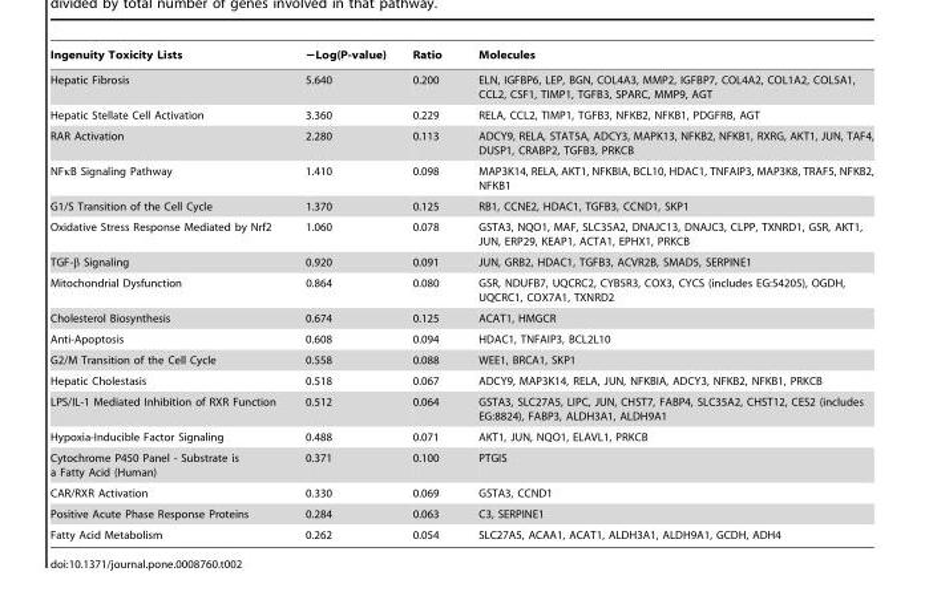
<table><thead><tr><td>Ingenuity Toxicity Lists</td><td>−Log(P-value)</td><td>Ratio</td><td>Molecules</td></tr></thead><tbody><tr><td>Hepatic Fibrosis</td><td>5.640</td><td>0.200</td><td>ELN, IGFBP6, LEP, BGN, COL4A3, MMP2, IGFBP7, COL4A2, COL1A2, COL5A1, CCL2, CSF1, TIMP1, TGFB3, SPARC, MMP9, AGT</td></tr><tr><td>Hepatic Stellate Cell Activation</td><td>3.360</td><td>0.229</td><td>RELA, CCL2, TIMP1, TGFB3, NFKB2, NFKB1, PDGFRB, AGT</td></tr><tr><td>RAR Activation</td><td>2.280</td><td>0.113</td><td>ADCY9, RELA, STAT5A, ADCY3, MAPK13, NFKB2, NFKB1, RXRG, AKT1, JUN, TAF4, DUSP1, CRABP2, TGFB3, PRKCB</td></tr><tr><td>NFκB Signaling Pathway</td><td>1.410</td><td>0.098</td><td>MAP3K14, RELA, AKT1, NFKBIA, BCL10, HDAC1, TNFAIP3, MAP3K8, TRAF5, NFKB2, NFKB1</td></tr><tr><td>G1/S Transition of the Cell Cycle</td><td>1.370</td><td>0.125</td><td>RB1, CCNE2, HDAC1, TGFB3, CCND1, SKP1</td></tr><tr><td>Oxidative Stress Response Mediated by Nrf2</td><td>1.060</td><td>0.078</td><td>GSTA3, NQO1, MAF, SLC35A2, DNAJC13, DNAJC3, CLPP, TXNRD1, GSR, AKT1, JUN, ERP29, KEAP1, ACTA1, EPHX1, PRKCB</td></tr><tr><td>TGF-β Signaling</td><td>0.920</td><td>0.091</td><td>JUN, GRB2, HDAC1, TGFB3, ACVR2B, SMAD5, SERPINE1</td></tr><tr><td>Mitochondrial Dysfunction</td><td>0.864</td><td>0.080</td><td>GSR, NDUFB7, UQCRC2, CYB5R3, COX3, CYCS (includes EG:54205), OGDH, UQCRC1, COX7A1, TXNRD2</td></tr><tr><td>Cholesterol Biosynthesis</td><td>0.674</td><td>0.125</td><td>ACAT1, HMGCR</td></tr><tr><td>Anti-Apoptosis</td><td>0.608</td><td>0.094</td><td>HDAC1, TNFAIP3, BCL2L10</td></tr><tr><td>G2/M Transition of the Cell Cycle</td><td>0.558</td><td>0.088</td><td>WEE1, BRCA1, SKP1</td></tr><tr><td>Hepatic Cholestasis</td><td>0.518</td><td>0.067</td><td>ADCY9, MAP3K14, RELA, JUN, NFKBIA, ADCY3, NFKB2, NFKB1, PRKCB</td></tr><tr><td>LPS/IL-1 Mediated Inhibition of RXR Function</td><td>0.512</td><td>0.064</td><td>GSTA3, SLC27A5, LIPC, JUN, CHST7, FABP4, SLC35A2, CHST12, CES2 (includes EG:8824), FABP3, ALDH3A1, ALDH9A1</td></tr><tr><td>Hypoxia-Inducible Factor Signaling</td><td>0.488</td><td>0.071</td><td>AKT1, JUN, NQO1, ELAVL1, PRKCB</td></tr><tr><td>Cytochrome P450 Panel - Substrate is a Fatty Acid (Human)</td><td>0.371</td><td>0.100</td><td>PTGIS</td></tr><tr><td>CAR/RXR Activation</td><td>0.330</td><td>0.069</td><td>GSTA3, CCND1</td></tr><tr><td>Positive Acute Phase Response Proteins</td><td>0.284</td><td>0.063</td><td>C3, SERPINE1</td></tr><tr><td>Fatty Acid Metabolism</td><td>0.262</td><td>0.054</td><td>SLC27A5, ACAA1, ACAT1, ALDH3A1, ALDH9A1, GCDH, ADH4</td></tr></tbody></table>